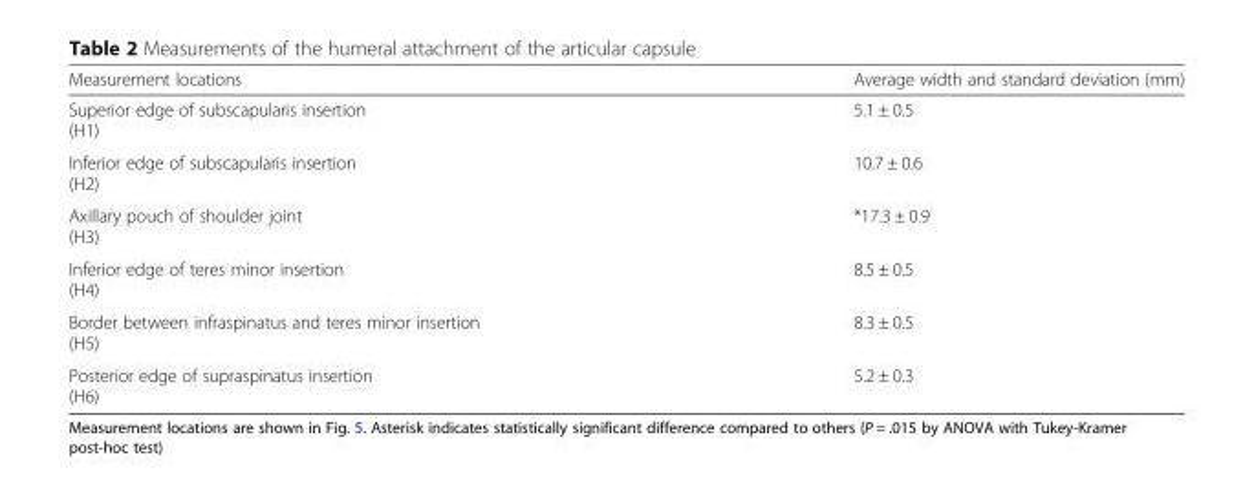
<table><thead><tr><td>Measurement locations</td><td>Average width and standard deviation (mm)</td></tr></thead><tbody><tr><td>Superior edge of subscapularis insertion (H1)</td><td>5.1 ± 0.5</td></tr><tr><td>Inferior edge of subscapularis insertion (H2)</td><td>10.7 ± 0.6</td></tr><tr><td>Axillary pouch of shoulder joint (H3)</td><td>*17.3 ± 0.9</td></tr><tr><td>Inferior edge of teres minor insertion (H4)</td><td>8.5 ± 0.5</td></tr><tr><td>Border between infraspinatus and teres minor insertion (H5)</td><td>8.3 ± 0.5</td></tr><tr><td>Posterior edge of supraspinatus insertion (H6)</td><td>5.2 ± 0.3</td></tr></tbody></table>